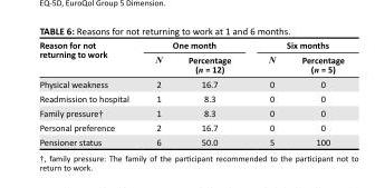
<table><thead><tr><td rowspan="2">Reason for not returning to work</td><td colspan="2">One month</td><td colspan="2">Six months</td></tr><tr><td>N</td><td>Percentage (n = 12)</td><td>N</td><td>Percentage (n = 5)</td></tr></thead><tbody><tr><td>Physical weakness</td><td>2</td><td>16.7</td><td>0</td><td>0</td></tr><tr><td>Readmission to hospital</td><td>1</td><td>8.3</td><td>0</td><td>0</td></tr><tr><td>Family pressure†</td><td>1</td><td>8.3</td><td>0</td><td>0</td></tr><tr><td>Personal preference</td><td>2</td><td>16.7</td><td>0</td><td>0</td></tr><tr><td>Pensioner status</td><td>6</td><td>50.0</td><td>5</td><td>100</td></tr></tbody></table>